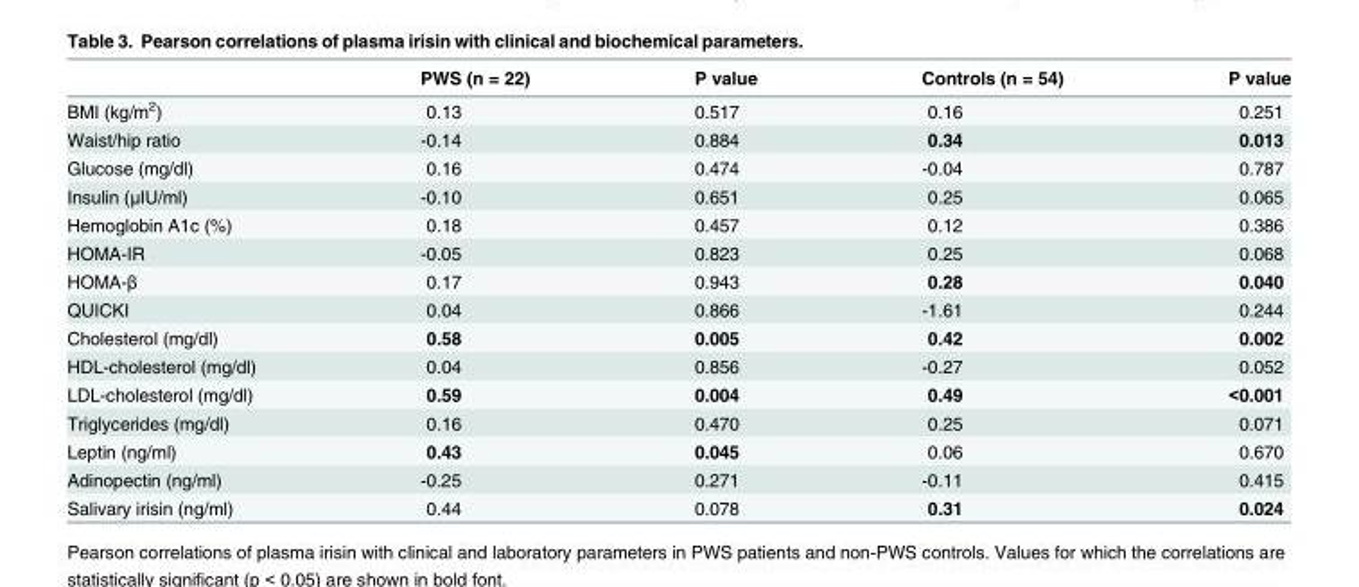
<table><thead><tr><td></td><td>PWS (n = 22)</td><td>P value</td><td>Controls (n = 54)</td><td>P value</td></tr></thead><tbody><tr><td>BMI (kg/m<sup>2</sup>)</td><td>0.13</td><td>0.517</td><td>0.16</td><td>0.251</td></tr><tr><td>Waist/hip ratio</td><td>-0.14</td><td>0.884</td><td>0.34</td><td>0.013</td></tr><tr><td>Glucose (mg/dl)</td><td>0.16</td><td>0.474</td><td>-0.04</td><td>0.787</td></tr><tr><td>Insulin (μIU/ml)</td><td>-0.10</td><td>0.651</td><td>0.25</td><td>0.065</td></tr><tr><td>Hemoglobin A1c (%)</td><td>0.18</td><td>0.457</td><td>0.12</td><td>0.386</td></tr><tr><td>HOMA-IR</td><td>-0.05</td><td>0.823</td><td>0.25</td><td>0.068</td></tr><tr><td>HOMA-β</td><td>0.17</td><td>0.943</td><td>0.28</td><td>0.040</td></tr><tr><td>QUICKI</td><td>0.04</td><td>0.866</td><td>-1.61</td><td>0.244</td></tr><tr><td>Cholesterol (mg/dl)</td><td>0.58</td><td>0.005</td><td>0.42</td><td>0.002</td></tr><tr><td>HDL-cholesterol (mg/dl)</td><td>0.04</td><td>0.856</td><td>-0.27</td><td>0.052</td></tr><tr><td>LDL-cholesterol (mg/dl)</td><td>0.59</td><td>0.004</td><td>0.49</td><td>&lt;0.001</td></tr><tr><td>Triglycerides (mg/dl)</td><td>0.16</td><td>0.470</td><td>0.25</td><td>0.071</td></tr><tr><td>Leptin (ng/ml)</td><td>0.43</td><td>0.045</td><td>0.06</td><td>0.670</td></tr><tr><td>Adinopectin (ng/ml)</td><td>-0.25</td><td>0.271</td><td>-0.11</td><td>0.415</td></tr><tr><td>Salivary irisin (ng/ml)</td><td>0.44</td><td>0.078</td><td>0.31</td><td>0.024</td></tr></tbody></table>